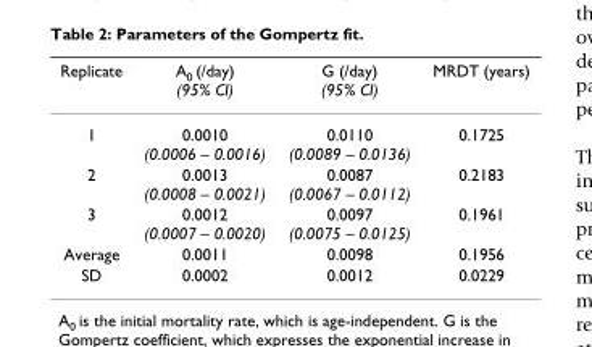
<table><thead><tr><td>Replicate</td><td>A<sub>0</sub> (/day) (95% CI)</td><td>G (/day) (95% CI)</td><td>MRDT (years)</td></tr></thead><tbody><tr><td>1</td><td>0.0010 (0.0006 – 0.0016)</td><td>0.0110 (0.0089 – 0.0136)</td><td>0.1725</td></tr><tr><td>2</td><td>0.0013 (0.0008 – 0.0021)</td><td>0.0087 (0.0067 – 0.0112)</td><td>0.2183</td></tr><tr><td>3</td><td>0.0012 (0.0007 – 0.0020)</td><td>0.0097 (0.0075 – 0.0125)</td><td>0.1961</td></tr><tr><td>Average</td><td>0.0011</td><td>0.0098</td><td>0.1956</td></tr><tr><td>SD</td><td>0.0002</td><td>0.0012</td><td>0.0229</td></tr></tbody></table>